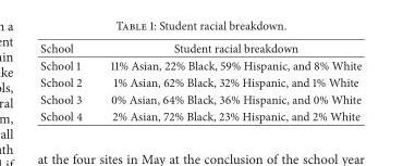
<table><thead><tr><td>School</td><td>Student racial breakdown</td></tr></thead><tbody><tr><td>School 1</td><td>11% Asian, 22% Black, 59% Hispanic, and 8% White</td></tr><tr><td>School 2</td><td>1% Asian, 62% Black, 32% Hispanic, and 1% White</td></tr><tr><td>School 3</td><td>0% Asian, 64% Black, 36% Hispanic, and 0% White</td></tr><tr><td>School 4</td><td>2% Asian, 72% Black, 23% Hispanic, and 2% White</td></tr></tbody></table>